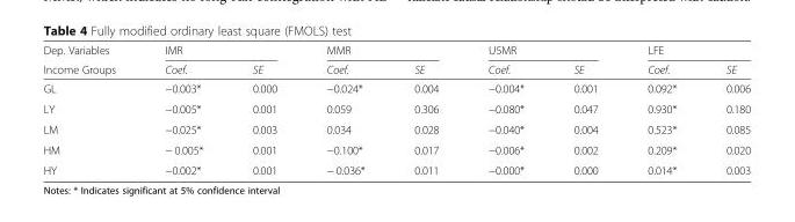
<table><thead><tr><td rowspan="2">Dep. Variables Income Groups</td><td colspan="2">IMR</td><td colspan="2">MMR</td><td colspan="2">U5MR</td><td colspan="2">LFE</td></tr><tr><td>Coef.</td><td>SE</td><td>Coef.</td><td>SE</td><td>Coef.</td><td>SE</td><td>Coef.</td><td>SE</td></tr></thead><tbody><tr><td>GL</td><td>−0.003*</td><td>0.000</td><td>−0.024*</td><td>0.004</td><td>−0.004*</td><td>0.001</td><td>0.092*</td><td>0.006</td></tr><tr><td>LY</td><td>−0.005*</td><td>0.001</td><td>0.059</td><td>0.306</td><td>−0.080*</td><td>0.047</td><td>0.930*</td><td>0.180</td></tr><tr><td>LM</td><td>−0.025*</td><td>0.003</td><td>0.034</td><td>0.028</td><td>−0.040*</td><td>0.004</td><td>0.523*</td><td>0.085</td></tr><tr><td>HM</td><td>− 0.005*</td><td>0.001</td><td>−0.100*</td><td>0.017</td><td>−0.006*</td><td>0.002</td><td>0.209*</td><td>0.020</td></tr><tr><td>HY</td><td>−0.002*</td><td>0.001</td><td>− 0.036*</td><td>0.011</td><td>−0.000*</td><td>0.000</td><td>0.014*</td><td>0.003</td></tr></tbody></table>